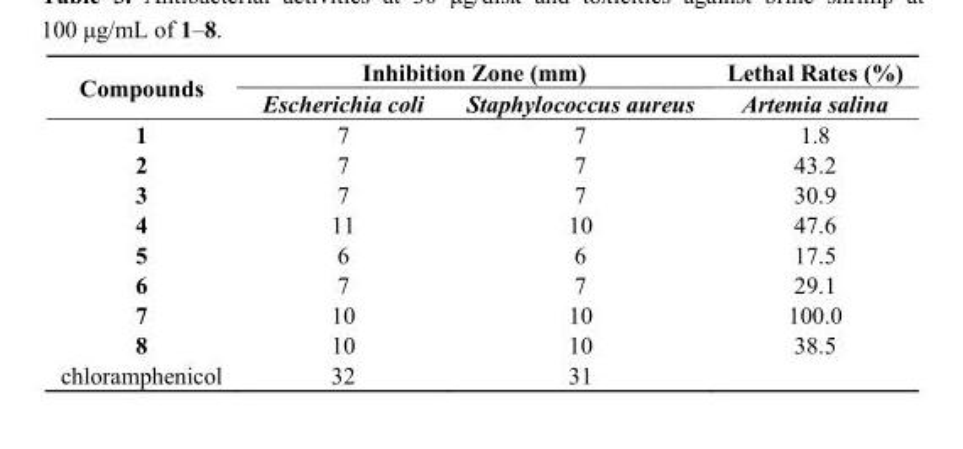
<table><thead><tr><td rowspan="2">Compounds</td><td colspan="2">Inhibition Zone (mm)</td><td rowspan="2">Lethal Rates (%) Artemia salina</td></tr><tr><td>Escherichia coli</td><td>Staphylococcus aureus</td></tr></thead><tbody><tr><td>1</td><td>7</td><td>7</td><td>1.8</td></tr><tr><td>2</td><td>7</td><td>7</td><td>43.2</td></tr><tr><td>3</td><td>7</td><td>7</td><td>30.9</td></tr><tr><td>4</td><td>11</td><td>10</td><td>47.6</td></tr><tr><td>5</td><td>6</td><td>6</td><td>17.5</td></tr><tr><td>6</td><td>7</td><td>7</td><td>29.1</td></tr><tr><td>7</td><td>10</td><td>10</td><td>100.0</td></tr><tr><td>8</td><td>10</td><td>10</td><td>38.5</td></tr><tr><td>chloramphenicol</td><td>32</td><td>31</td><td></td></tr></tbody></table>